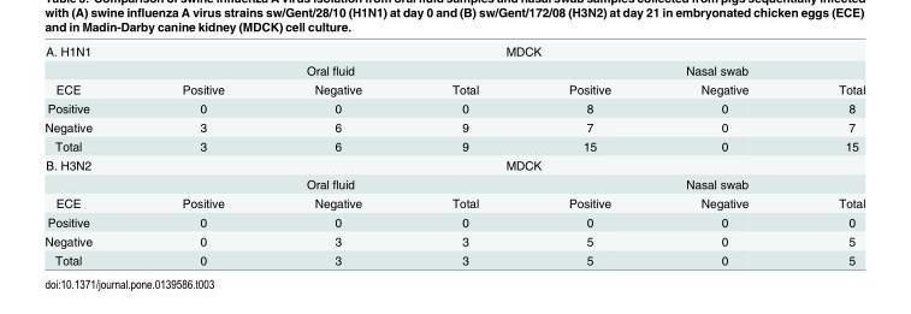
<table><tbody><tr><td rowspan="2">A. H1N1</td><td colspan="6">MDCK</td></tr><tr><td colspan="3">Oral fluid</td><td colspan="3">Nasal swab</td></tr><tr><td>ECE</td><td>Positive</td><td>Negative</td><td>Total</td><td>Positive</td><td>Negative</td><td>Total</td></tr><tr><td>Positive</td><td>0</td><td>0</td><td>0</td><td>8</td><td>0</td><td>8</td></tr><tr><td>Negative</td><td>3</td><td>6</td><td>9</td><td>7</td><td>0</td><td>7</td></tr><tr><td>Total</td><td>3</td><td>6</td><td>9</td><td>15</td><td>0</td><td>15</td></tr><tr><td rowspan="2">B. H3N2</td><td colspan="6">MDCK</td></tr><tr><td colspan="3">Oral fluid</td><td colspan="3">Nasal swab</td></tr><tr><td>ECE</td><td>Positive</td><td>Negative</td><td>Total</td><td>Positive</td><td>Negative</td><td>Total</td></tr><tr><td>Positive</td><td>0</td><td>0</td><td>0</td><td>0</td><td>0</td><td>0</td></tr><tr><td>Negative</td><td>0</td><td>3</td><td>3</td><td>5</td><td>0</td><td>5</td></tr><tr><td>Total</td><td>0</td><td>3</td><td>3</td><td>5</td><td>0</td><td>5</td></tr></tbody></table>